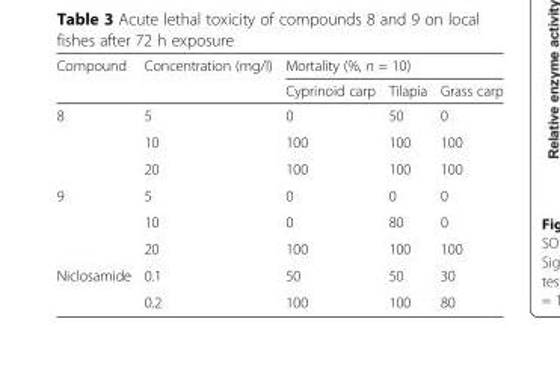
<table><thead><tr><td rowspan="2">Compound</td><td rowspan="2">Concentration (mg/l)</td><td colspan="3">Mortality (%, n = 10)</td></tr><tr><td>Cyprinoid carp</td><td>Tilapia</td><td>Grass carp</td></tr></thead><tbody><tr><td rowspan="3">8</td><td>5</td><td>0</td><td>50</td><td>0</td></tr><tr><td>10</td><td>100</td><td>100</td><td>100</td></tr><tr><td>20</td><td>100</td><td>100</td><td>100</td></tr><tr><td rowspan="3">9</td><td>5</td><td>0</td><td>0</td><td>0</td></tr><tr><td>10</td><td>0</td><td>80</td><td>0</td></tr><tr><td>20</td><td>100</td><td>100</td><td>100</td></tr><tr><td rowspan="2">Niclosamide</td><td>0.1</td><td>50</td><td>50</td><td>30</td></tr><tr><td>0.2</td><td>100</td><td>100</td><td>80</td></tr></tbody></table>